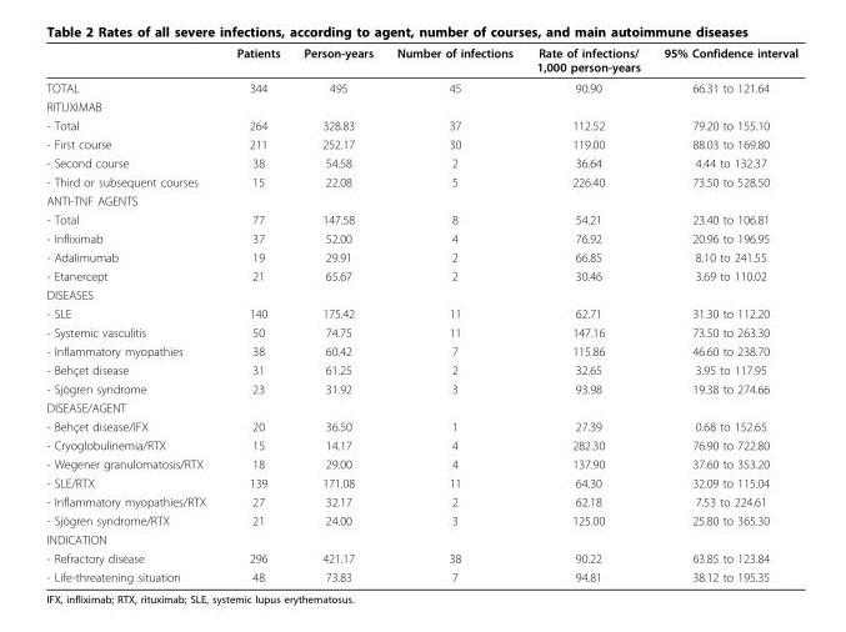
<table><thead><tr><td></td><td>Patients</td><td>Person-years</td><td>Number of infections</td><td>Rate of infections/ 1,000 person-years</td><td>95% Confidence interval</td></tr></thead><tbody><tr><td>TOTAL</td><td>344</td><td>495</td><td>45</td><td>90.90</td><td>66.31 to 121.64</td></tr><tr><td colspan="6">RITUXIMAB</td></tr><tr><td>- Total</td><td>264</td><td>328.83</td><td>37</td><td>112.52</td><td>79.20 to 155.10</td></tr><tr><td>- First course</td><td>211</td><td>252.17</td><td>30</td><td>119.00</td><td>88.03 to 169.80</td></tr><tr><td>- Second course</td><td>38</td><td>54.58</td><td>2</td><td>36.64</td><td>4.44 to 132.37</td></tr><tr><td>- Third or subsequent courses</td><td>15</td><td>22.08</td><td>5</td><td>226.40</td><td>73.50 to 528.50</td></tr><tr><td colspan="6">ANTI-TNF AGENTS</td></tr><tr><td>- Total</td><td>77</td><td>147.58</td><td>8</td><td>54.21</td><td>23.40 to 106.81</td></tr><tr><td>- Infliximab</td><td>37</td><td>52.00</td><td>4</td><td>76.92</td><td>20.96 to 196.95</td></tr><tr><td>- Adalimumab</td><td>19</td><td>29.91</td><td>2</td><td>66.85</td><td>8.10 to 241.55</td></tr><tr><td>- Etanercept</td><td>21</td><td>65.67</td><td>2</td><td>30.46</td><td>3.69 to 110.02</td></tr><tr><td colspan="6">DISEASES</td></tr><tr><td>- SLE</td><td>140</td><td>175.42</td><td>11</td><td>62.71</td><td>31.30 to 112.20</td></tr><tr><td>- Systemic vasculitis</td><td>50</td><td>74.75</td><td>11</td><td>147.16</td><td>73.50 to 263.30</td></tr><tr><td>- Inflammatory myopathies</td><td>38</td><td>60.42</td><td>7</td><td>115.86</td><td>46.60 to 238.70</td></tr><tr><td>- Behçet disease</td><td>31</td><td>61.25</td><td>2</td><td>32.65</td><td>3.95 to 117.95</td></tr><tr><td>- Sjögren syndrome</td><td>23</td><td>31.92</td><td>3</td><td>93.98</td><td>19.38 to 274.66</td></tr><tr><td colspan="6">DISEASE/AGENT</td></tr><tr><td>- Behçet disease/IFX</td><td>20</td><td>36.50</td><td>1</td><td>27.39</td><td>0.68 to 152.65</td></tr><tr><td>- Cryoglobulinemia/RTX</td><td>15</td><td>14.17</td><td>4</td><td>282.30</td><td>76.90 to 722.80</td></tr><tr><td>- Wegener granulomatosis/RTX</td><td>18</td><td>29.00</td><td>4</td><td>137.90</td><td>37.60 to 353.20</td></tr><tr><td>- SLE/RTX</td><td>139</td><td>171.08</td><td>11</td><td>64.30</td><td>32.09 to 115.04</td></tr><tr><td>- Inflammatory myopathies/RTX</td><td>27</td><td>32.17</td><td>2</td><td>62.18</td><td>7.53 to 224.61</td></tr><tr><td>- Sjögren syndrome/RTX</td><td>21</td><td>24.00</td><td>3</td><td>125.00</td><td>25.80 to 365.30</td></tr><tr><td colspan="6">INDICATION</td></tr><tr><td>- Refractory disease</td><td>296</td><td>421.17</td><td>38</td><td>90.22</td><td>63.85 to 123.84</td></tr><tr><td>- Life-threatening situation</td><td>48</td><td>73.83</td><td>7</td><td>94.81</td><td>38.12 to 195.35</td></tr></tbody></table>